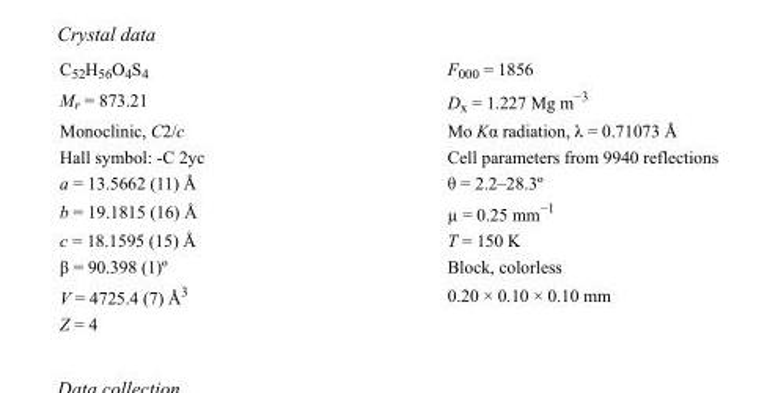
<table><tbody><tr><td>C<sub>52</sub>H<sub>56</sub>O<sub>4</sub>S<sub>4</sub></td><td>F000 = 1856</td></tr><tr><td>M<sub>r</sub> = 873.21</td><td>D<sub>x</sub> = 1.227 Mg m<sup>−3</sup></td></tr><tr><td>Monoclinic, C2/c</td><td>Mo Kα radiation, λ = 0.71073 Å</td></tr><tr><td>Hall symbol: -C 2yc</td><td>Cell parameters from 9940 reflections</td></tr><tr><td>a = 13.5662 (11) Å</td><td>θ = 2.2–28.3º</td></tr><tr><td>b = 19.1815 (16) Å</td><td>µ = 0.25 mm<sup>−1</sup></td></tr><tr><td>c = 18.1595 (15) Å</td><td>T = 150 K</td></tr><tr><td>β = 90.398 (1)º</td><td>Block, colorless</td></tr><tr><td>V = 4725.4 (7) Å<sup>3</sup></td><td>0.20 × 0.10 × 0.10 mm</td></tr><tr><td>Z = 4</td><td></td></tr></tbody></table>